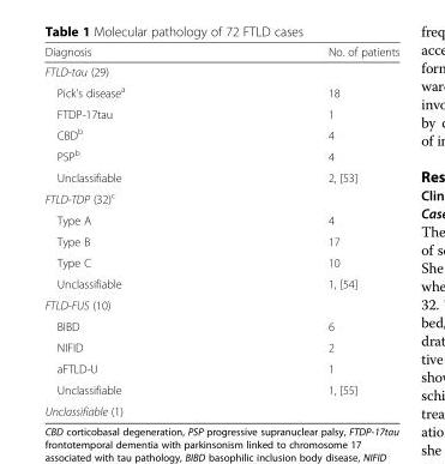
<table><thead><tr><td>Diagnosis</td><td>No. of patients</td></tr></thead><tbody><tr><td colspan="2">FTLD-tau (29)</td></tr><tr><td>Pick’s disease<sup>a</sup></td><td>18</td></tr><tr><td>FTDP-17tau</td><td>1</td></tr><tr><td>CBD<sup>b</sup></td><td>4</td></tr><tr><td>PSP<sup>b</sup></td><td>4</td></tr><tr><td>Unclassifiable</td><td>2, [53]</td></tr><tr><td colspan="2">FTLD-TDP (32)<sup>c</sup></td></tr><tr><td>Type A</td><td>4</td></tr><tr><td>Type B</td><td>17</td></tr><tr><td>Type C</td><td>10</td></tr><tr><td>Unclassifiable</td><td>1, [54]</td></tr><tr><td colspan="2">FTLD-FUS (10)</td></tr><tr><td>BIBD</td><td>6</td></tr><tr><td>NIFID</td><td>2</td></tr><tr><td>aFTLD-U</td><td>1</td></tr><tr><td>Unclassifiable</td><td>1, [55]</td></tr><tr><td>Unclassifiable (1)</td><td></td></tr></tbody></table>